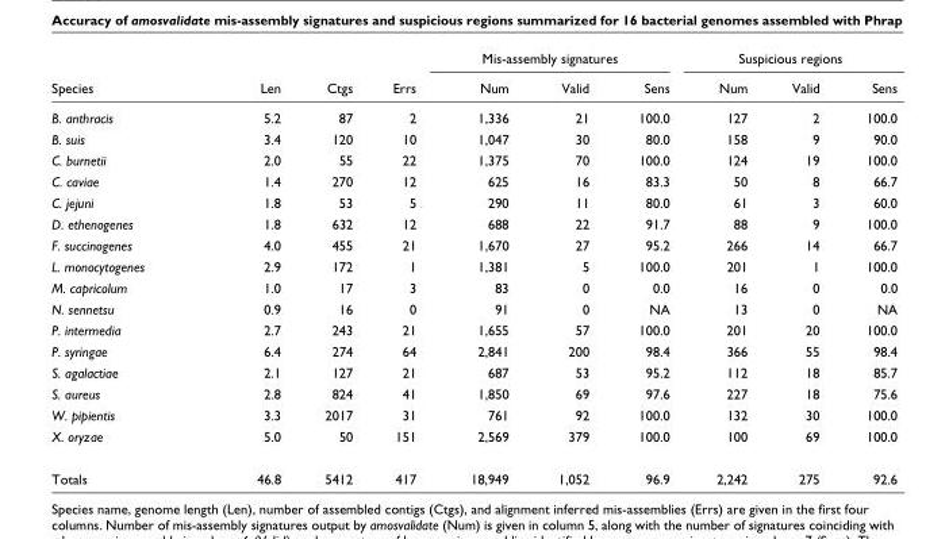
<table><thead><tr><td rowspan="2">Species</td><td rowspan="2">Len</td><td rowspan="2">Ctgs</td><td rowspan="2">Errs</td><td colspan="3">Mis-assembly signatures</td><td colspan="3">Suspicious regions</td></tr><tr><td>Num</td><td>Valid</td><td>Sens</td><td>Num</td><td>Valid</td><td>Sens</td></tr></thead><tbody><tr><td>B. anthracis</td><td>5.2</td><td>87</td><td>2</td><td>1,336</td><td>21</td><td>100.0</td><td>127</td><td>2</td><td>100.0</td></tr><tr><td>B. suis</td><td>3.4</td><td>120</td><td>10</td><td>1,047</td><td>30</td><td>80.0</td><td>158</td><td>9</td><td>90.0</td></tr><tr><td>C. burnetii</td><td>2.0</td><td>55</td><td>22</td><td>1,375</td><td>70</td><td>100.0</td><td>124</td><td>19</td><td>100.0</td></tr><tr><td>C. caviae</td><td>1.4</td><td>270</td><td>12</td><td>625</td><td>16</td><td>83.3</td><td>50</td><td>8</td><td>66.7</td></tr><tr><td>C. jejuni</td><td>1.8</td><td>53</td><td>5</td><td>290</td><td>11</td><td>80.0</td><td>61</td><td>3</td><td>60.0</td></tr><tr><td>D. ethenogenes</td><td>1.8</td><td>632</td><td>12</td><td>688</td><td>22</td><td>91.7</td><td>88</td><td>9</td><td>100.0</td></tr><tr><td>F. succinogenes</td><td>4.0</td><td>455</td><td>21</td><td>1,670</td><td>27</td><td>95.2</td><td>266</td><td>14</td><td>66.7</td></tr><tr><td>L. monocytogenes</td><td>2.9</td><td>172</td><td>1</td><td>1,381</td><td>5</td><td>100.0</td><td>201</td><td>1</td><td>100.0</td></tr><tr><td>M. capricolum</td><td>1.0</td><td>17</td><td>3</td><td>83</td><td>0</td><td>0.0</td><td>16</td><td>0</td><td>0.0</td></tr><tr><td>N. sennetsu</td><td>0.9</td><td>16</td><td>0</td><td>91</td><td>0</td><td>NA</td><td>13</td><td>0</td><td>NA</td></tr><tr><td>P. intermedia</td><td>2.7</td><td>243</td><td>21</td><td>1,655</td><td>57</td><td>100.0</td><td>201</td><td>20</td><td>100.0</td></tr><tr><td>P. syringae</td><td>6.4</td><td>274</td><td>64</td><td>2,841</td><td>200</td><td>98.4</td><td>366</td><td>55</td><td>98.4</td></tr><tr><td>S. agalactiae</td><td>2.1</td><td>127</td><td>21</td><td>687</td><td>53</td><td>95.2</td><td>112</td><td>18</td><td>85.7</td></tr><tr><td>S. aureus</td><td>2.8</td><td>824</td><td>41</td><td>1,850</td><td>69</td><td>97.6</td><td>227</td><td>18</td><td>75.6</td></tr><tr><td>W. pipientis</td><td>3.3</td><td>2017</td><td>31</td><td>761</td><td>92</td><td>100.0</td><td>132</td><td>30</td><td>100.0</td></tr><tr><td>X. oryzae</td><td>5.0</td><td>50</td><td>151</td><td>2,569</td><td>379</td><td>100.0</td><td>100</td><td>69</td><td>100.0</td></tr><tr><td>Totals</td><td>46.8</td><td>5412</td><td>417</td><td>18,949</td><td>1,052</td><td>96.9</td><td>2,242</td><td>275</td><td>92.6</td></tr></tbody></table>